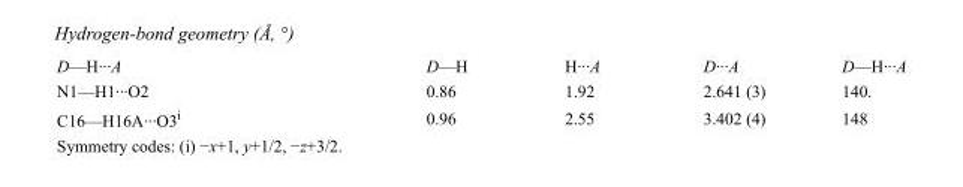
<table><tbody><tr><td>D—H···A</td><td>D—H</td><td>H···A</td><td>D···A</td><td>D—H···A</td></tr><tr><td>N1—H1···O2</td><td>0.86</td><td>1.92</td><td>2.641 (3)</td><td>140.</td></tr><tr><td>C16—H16A···O3<sup>i</sup></td><td>0.96</td><td>2.55</td><td>3.402 (4)</td><td>148</td></tr></tbody></table>